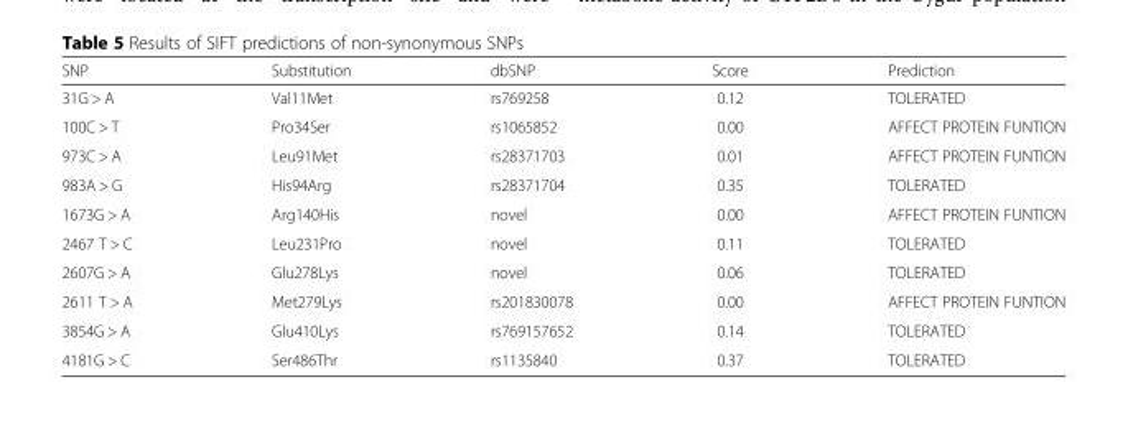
<table><thead><tr><td>SNP</td><td>Substitution</td><td>dbSNP</td><td>Score</td><td>Prediction</td></tr></thead><tbody><tr><td>31G &gt; A</td><td>Val11Met</td><td>rs769258</td><td>0.12</td><td>TOLERATED</td></tr><tr><td>100C &gt; T</td><td>Pro34Ser</td><td>rs1065852</td><td>0.00</td><td>AFFECT PROTEIN FUNTION</td></tr><tr><td>973C &gt; A</td><td>Leu91Met</td><td>rs28371703</td><td>0.01</td><td>AFFECT PROTEIN FUNTION</td></tr><tr><td>983A &gt; G</td><td>His94Arg</td><td>rs28371704</td><td>0.35</td><td>TOLERATED</td></tr><tr><td>1673G &gt; A</td><td>Arg140His</td><td>novel</td><td>0.00</td><td>AFFECT PROTEIN FUNTION</td></tr><tr><td>2467 T &gt; C</td><td>Leu231Pro</td><td>novel</td><td>0.11</td><td>TOLERATED</td></tr><tr><td>2607G &gt; A</td><td>Glu278Lys</td><td>novel</td><td>0.06</td><td>TOLERATED</td></tr><tr><td>2611 T &gt; A</td><td>Met279Lys</td><td>rs201830078</td><td>0.00</td><td>AFFECT PROTEIN FUNTION</td></tr><tr><td>3854G &gt; A</td><td>Glu410Lys</td><td>rs769157652</td><td>0.14</td><td>TOLERATED</td></tr><tr><td>4181G &gt; C</td><td>Ser486Thr</td><td>rs1135840</td><td>0.37</td><td>TOLERATED</td></tr></tbody></table>